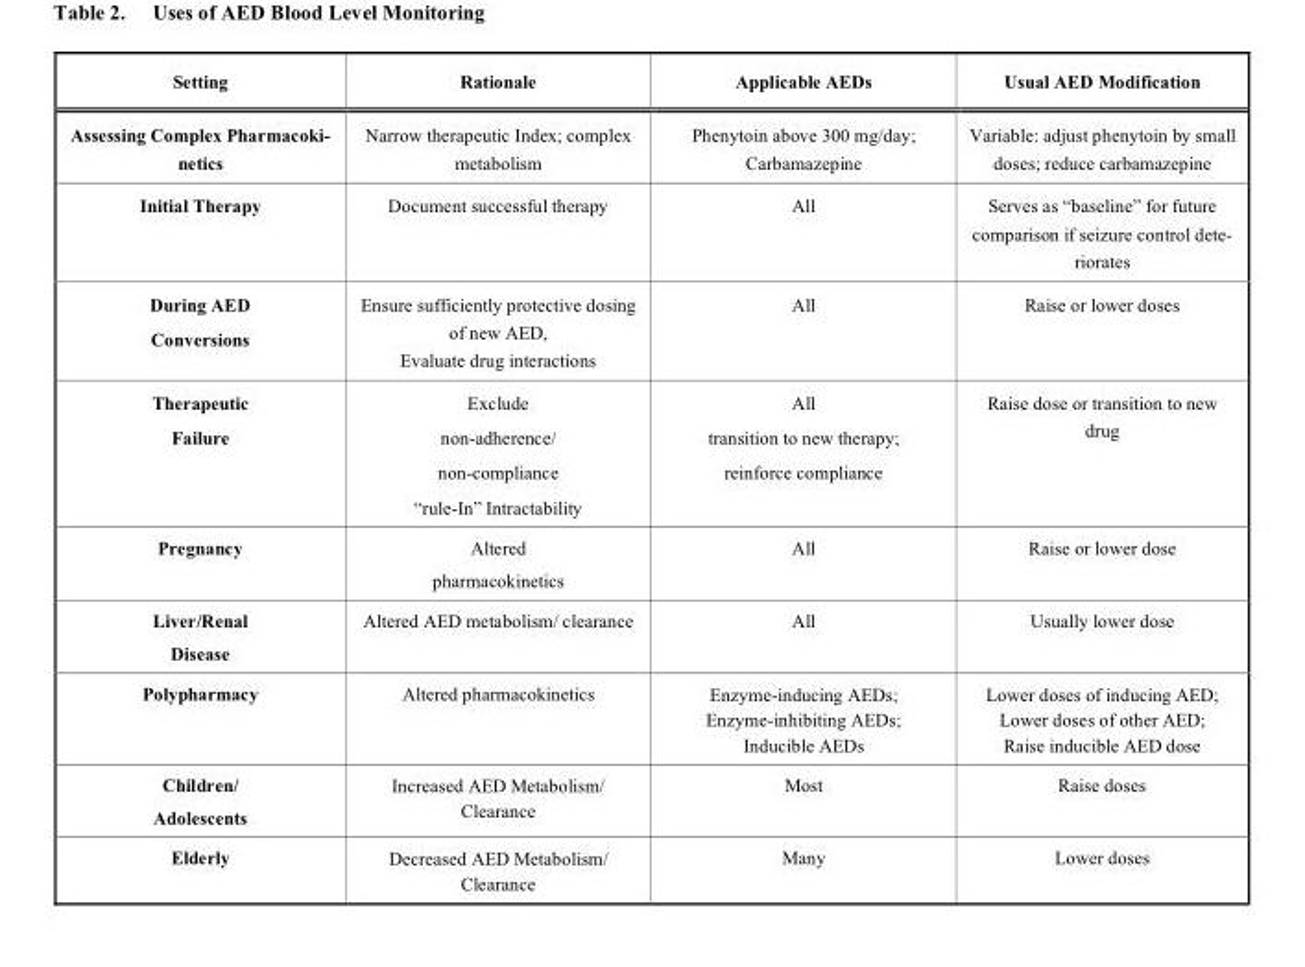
<table><thead><tr><td>Setting</td><td>Rationale</td><td>Applicable AEDs</td><td>Usual AED Modification</td></tr></thead><tbody><tr><td>Assessing Complex Pharmacoki- netics</td><td>Narrow therapeutic Index; complex metabolism</td><td>Phenytoin above 300 mg/day; Carbamazepine</td><td>Variable: adjust phenytoin by small doses; reduce carbamazepine</td></tr><tr><td>Initial Therapy</td><td>Document successful therapy</td><td>All</td><td>Serves as “baseline” for future comparison if seizure control dete- riorates</td></tr><tr><td>During AED Conversions</td><td>Ensure sufficiently protective dosing of new AED, Evaluate drug interactions</td><td>All</td><td>Raise or lower doses</td></tr><tr><td>Therapeutic Failure</td><td>Exclude non-adherence/ non-compliance “rule-In” Intractability</td><td>All transition to new therapy; reinforce compliance</td><td>Raise dose or transition to new drug</td></tr><tr><td>Pregnancy</td><td>Altered pharmacokinetics</td><td>All</td><td>Raise or lower dose</td></tr><tr><td>Liver/Renal Disease</td><td>Altered AED metabolism/ clearance</td><td>All</td><td>Usually lower dose</td></tr><tr><td>Polypharmacy</td><td>Altered pharmacokinetics</td><td>Enzyme-inducing AEDs; Enzyme-inhibiting AEDs; Inducible AEDs</td><td>Lower doses of inducing AED; Lower doses of other AED; Raise inducible AED dose</td></tr><tr><td>Children/ Adolescents</td><td>Increased AED Metabolism/ Clearance</td><td>Most</td><td>Raise doses</td></tr><tr><td>Elderly</td><td>Decreased AED Metabolism/ Clearance</td><td>Many</td><td>Lower doses</td></tr></tbody></table>